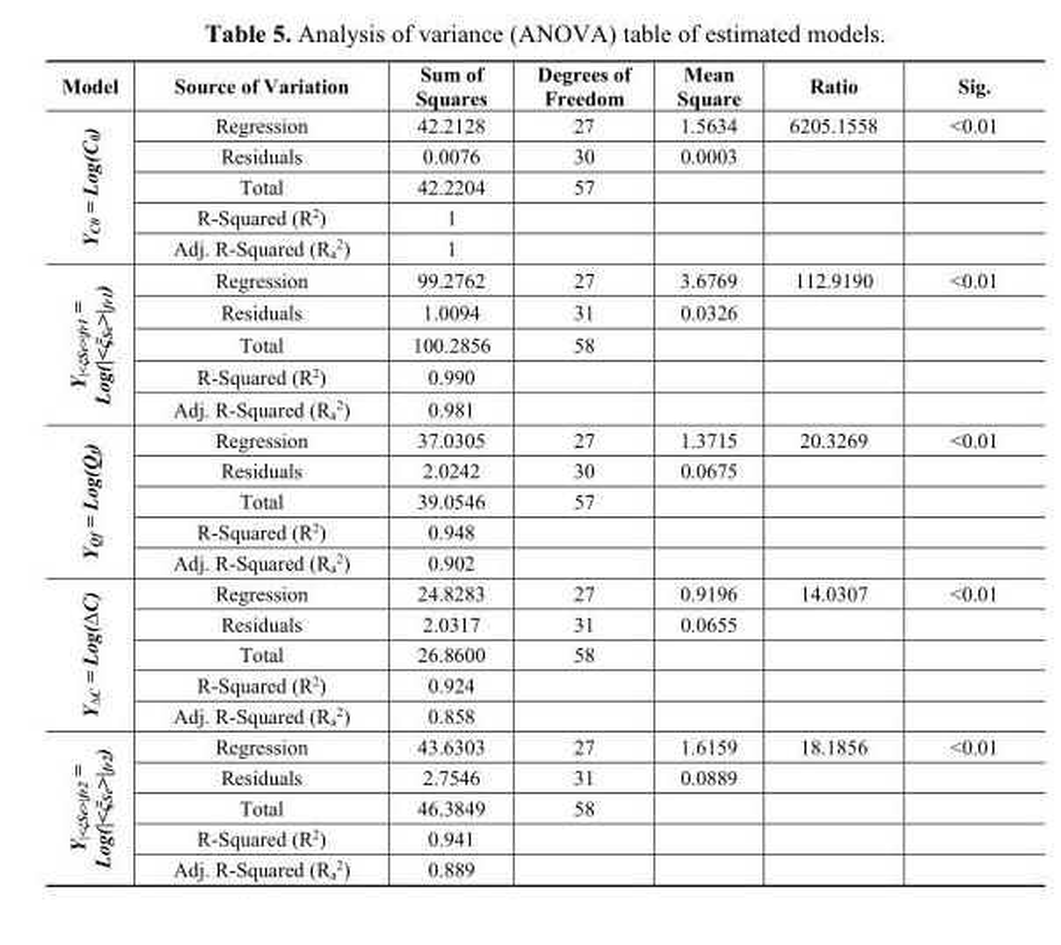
<table><thead><tr><td>Model</td><td>Source of Variation</td><td>Sum of Squares</td><td>Degrees of Freedom</td><td>Mean Square</td><td>Ratio</td><td>Sig.</td></tr></thead><tbody><tr><td rowspan="5">Y<sub>C0</sub> = Log(C<sub>0</sub>)</td><td>Regression</td><td>42.2128</td><td>27</td><td>1.5634</td><td>6205.1558</td><td>&lt;0.01</td></tr><tr><td>Residuals</td><td>0.0076</td><td>30</td><td>0.0003</td><td></td><td></td></tr><tr><td>Total</td><td>42.2204</td><td>57</td><td></td><td></td><td></td></tr><tr><td>R-Squared (R<sup>2</sup>)</td><td>1</td><td></td><td></td><td></td><td></td></tr><tr><td>Adj. R-Squared (R<sub>a</sub><sup>2</sup>)</td><td>1</td><td></td><td></td><td></td><td></td></tr><tr><td rowspan="5">Y<sub>|˂ξSe˃|fr1</sub> = Log(|˂ξ<sub>Se</sub>˃|<sub>fr1</sub>)</td><td>Regression</td><td>99.2762</td><td>27</td><td>3.6769</td><td>112.9190</td><td>&lt;0.01</td></tr><tr><td>Residuals</td><td>1.0094</td><td>31</td><td>0.0326</td><td></td><td></td></tr><tr><td>Total</td><td>100.2856</td><td>58</td><td></td><td></td><td></td></tr><tr><td>R-Squared (R<sup>2</sup>)</td><td>0.990</td><td></td><td></td><td></td><td></td></tr><tr><td>Adj. R-Squared (R<sub>a</sub><sup>2</sup>)</td><td>0.981</td><td></td><td></td><td></td><td></td></tr><tr><td rowspan="5">Y<sub>Qf</sub> = Log(Q<sub>f</sub>)</td><td>Regression</td><td>37.0305</td><td>27</td><td>1.3715</td><td>20.3269</td><td>&lt;0.01</td></tr><tr><td>Residuals</td><td>2.0242</td><td>30</td><td>0.0675</td><td></td><td></td></tr><tr><td>Total</td><td>39.0546</td><td>57</td><td></td><td></td><td></td></tr><tr><td>R-Squared (R<sup>2</sup>)</td><td>0.948</td><td></td><td></td><td></td><td></td></tr><tr><td>Adj. R-Squared (R<sub>a</sub><sup>2</sup>)</td><td>0.902</td><td></td><td></td><td></td><td></td></tr><tr><td rowspan="5">Y<sub>∆C</sub> = Log(∆C)</td><td>Regression</td><td>24.8283</td><td>27</td><td>0.9196</td><td>14.0307</td><td>&lt;0.01</td></tr><tr><td>Residuals</td><td>2.0317</td><td>31</td><td>0.0655</td><td></td><td></td></tr><tr><td>Total</td><td>26.8600</td><td>58</td><td></td><td></td><td></td></tr><tr><td>R-Squared (R<sup>2</sup>)</td><td>0.924</td><td></td><td></td><td></td><td></td></tr><tr><td>Adj. R-Squared (R<sub>a</sub><sup>2</sup>)</td><td>0.858</td><td></td><td></td><td></td><td></td></tr><tr><td rowspan="5">Y<sub>|˂ξSe˃|fr2</sub> = Log(|˂ξ<sub>Se</sub>˃|<sub>fr2</sub>)</td><td>Regression</td><td>43.6303</td><td>27</td><td>1.6159</td><td>18.1856</td><td>&lt;0.01</td></tr><tr><td>Residuals</td><td>2.7546</td><td>31</td><td>0.0889</td><td></td><td></td></tr><tr><td>Total</td><td>46.3849</td><td>58</td><td></td><td></td><td></td></tr><tr><td>R-Squared (R<sup>2</sup>)</td><td>0.941</td><td></td><td></td><td></td><td></td></tr><tr><td>Adj. R-Squared (R<sub>a</sub><sup>2</sup>)</td><td>0.889</td><td></td><td></td><td></td><td></td></tr></tbody></table>